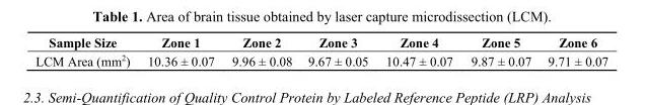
<table><thead><tr><td>Sample Size</td><td>Zone 1</td><td>Zone 2</td><td>Zone 3</td><td>Zone 4</td><td>Zone 5</td><td>Zone 6</td></tr></thead><tbody><tr><td>LCM Area (mm<sup>2</sup>)</td><td>10.36 ± 0.07</td><td>9.96 ± 0.08</td><td>9.67 ± 0.05</td><td>10.47 ± 0.07</td><td>9.87 ± 0.07</td><td>9.71 ± 0.07</td></tr></tbody></table>